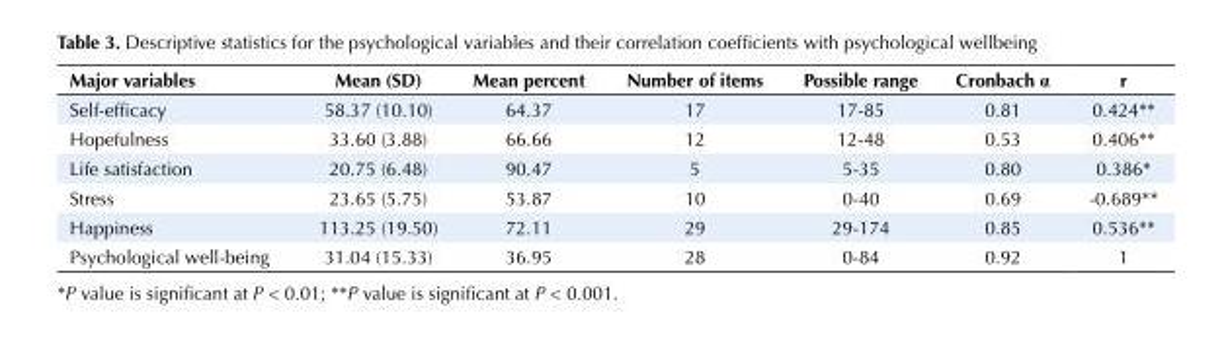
<table><tbody><tr><td>Major variables</td><td>Mean (SD)</td><td>Mean percent</td><td>Number of items</td><td>Possible range</td><td>Cronbach α</td><td>r</td></tr><tr><td>Self-efficacy</td><td>58.37 (10.10)</td><td>64.37</td><td>17</td><td>17-85</td><td>0.81</td><td>0.424**</td></tr><tr><td>Hopefulness</td><td>33.60 (3.88)</td><td>66.66</td><td>12</td><td>12-48</td><td>0.53</td><td>0.406**</td></tr><tr><td>Life satisfaction</td><td>20.75 (6.48)</td><td>90.47</td><td>5</td><td>5-35</td><td>0.80</td><td>0.386*</td></tr><tr><td>Stress</td><td>23.65 (5.75)</td><td>53.87</td><td>10</td><td>0-40</td><td>0.69</td><td>-0.689**</td></tr><tr><td>Happiness</td><td>113.25 (19.50)</td><td>72.11</td><td>29</td><td>29-174</td><td>0.85</td><td>0.536**</td></tr><tr><td>Psychological well-being</td><td>31.04 (15.33)</td><td>36.95</td><td>28</td><td>0-84</td><td>0.92</td><td>1</td></tr></tbody></table>